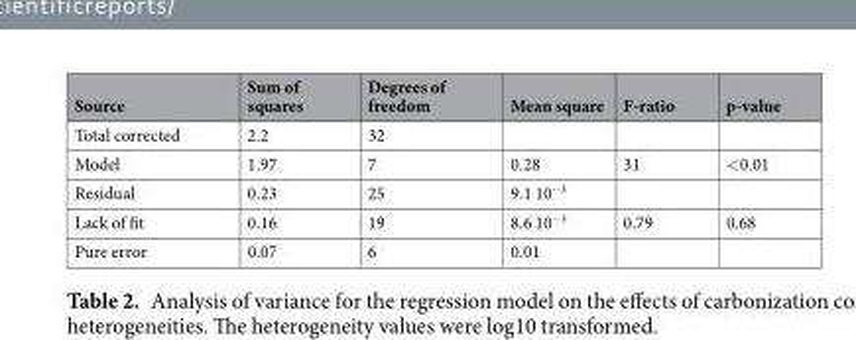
<table><thead><tr><td>Source</td><td>Sum of squares</td><td>Degrees of freedom</td><td>Mean square</td><td>F-ratio</td><td>p-value</td></tr></thead><tbody><tr><td>Total corrected</td><td>2.2</td><td>32</td><td></td><td></td><td></td></tr><tr><td>Model</td><td>1.97</td><td>7</td><td>0.28</td><td>31</td><td>&lt;0.01</td></tr><tr><td>Residual</td><td>0.23</td><td>25</td><td>9.1 10<sup>−3</sup></td><td></td><td></td></tr><tr><td>Lack of fit</td><td>0.16</td><td>19</td><td>8.6 10<sup>−3</sup></td><td>0.79</td><td>0.68</td></tr><tr><td>Pure error</td><td>0.07</td><td>6</td><td>0.01</td><td></td><td></td></tr></tbody></table>